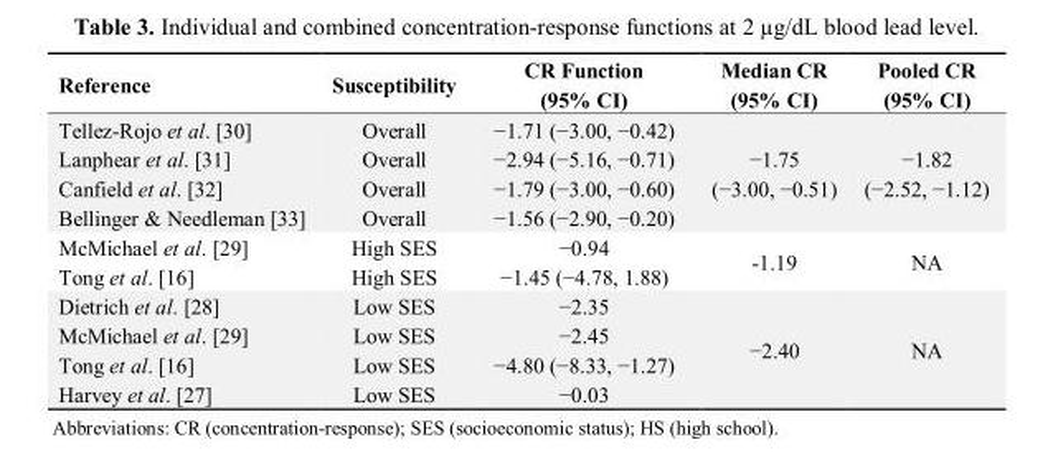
<table><thead><tr><td>Reference</td><td>Susceptibility</td><td>CR Function (95% CI)</td><td>Median CR (95% CI)</td><td>Pooled CR (95% CI)</td></tr></thead><tbody><tr><td>Tellez-Rojo et al. [30]</td><td>Overall</td><td>−1.71 (−3.00, −0.42)</td><td rowspan="4">−1.75 (−3.00, −0.51)</td><td rowspan="4">−1.82 (−2.52, −1.12)</td></tr><tr><td>Lanphear et al. [31]</td><td>Overall</td><td>−2.94 (−5.16, −0.71)</td></tr><tr><td>Canfield et al. [32]</td><td>Overall</td><td>−1.79 (−3.00, −0.60)</td></tr><tr><td>Bellinger &amp; Needleman [33]</td><td>Overall</td><td>−1.56 (−2.90, −0.20)</td></tr><tr><td>McMichael et al. [29]</td><td>High SES</td><td>−0.94</td><td rowspan="2">-1.19</td><td rowspan="2">NA</td></tr><tr><td>Tong et al. [16]</td><td>High SES</td><td>−1.45 (−4.78, 1.88)</td></tr><tr><td>Dietrich et al. [28]</td><td>Low SES</td><td>−2.35</td><td rowspan="4">−2.40</td><td rowspan="4">NA</td></tr><tr><td>McMichael et al. [29]</td><td>Low SES</td><td>−2.45</td></tr><tr><td>Tong et al. [16]</td><td>Low SES</td><td>−4.80 (−8.33, −1.27)</td></tr><tr><td>Harvey et al. [27]</td><td>Low SES</td><td>−0.03</td></tr></tbody></table>